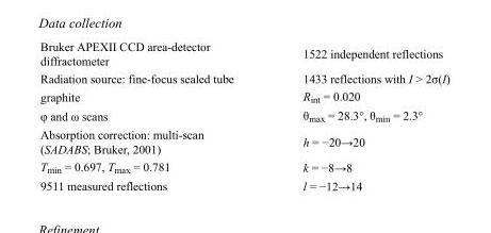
<table><tbody><tr><td>Bruker APEXII CCD area-detector diffractometer</td><td>1522 independent reflections</td></tr><tr><td>Radiation source: fine-focus sealed tube</td><td>1433 reflections with I &gt; 2σ(I)</td></tr><tr><td>graphite</td><td>R<sub>int</sub> = 0.020</td></tr><tr><td>φ and ω scans</td><td>θ<sub>max</sub> = 28.3°, θ<sub>min</sub> = 2.3°</td></tr><tr><td>Absorption correction: multi-scan (SADABS; Bruker, 2001)</td><td>h = −20→20</td></tr><tr><td>T<sub>min</sub> = 0.697, T<sub>max</sub> = 0.781</td><td>k = −8→8</td></tr><tr><td>9511 measured reflections</td><td>l = −12→14</td></tr></tbody></table>